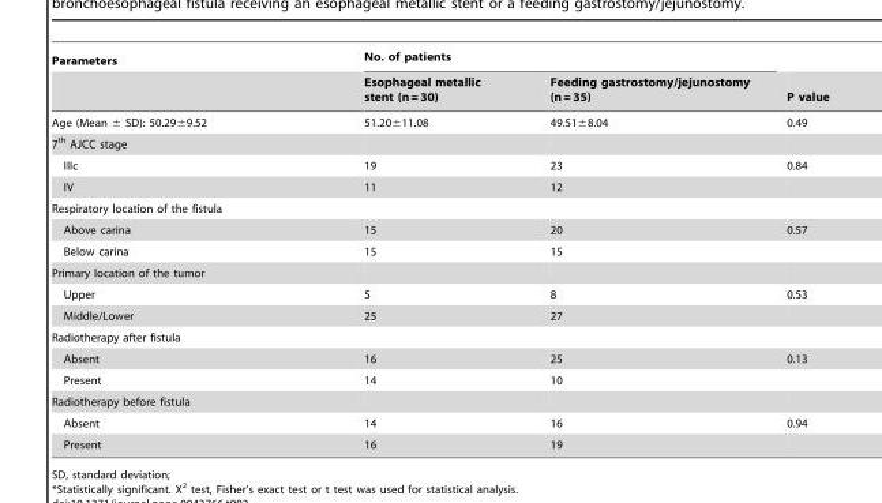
<table><thead><tr><td rowspan="2">Parameters</td><td colspan="2">No. of patients</td><td rowspan="2">P value</td></tr><tr><td>Esophageal metallic stent (n = 30)</td><td>Feeding gastrostomy/jejunostomy (n = 35)</td></tr></thead><tbody><tr><td>Age (Mean ± SD): 50.29±9.52</td><td>51.20±11.08</td><td>49.51±8.04</td><td>0.49</td></tr><tr><td colspan="4">7<sup>th</sup> AJCC stage</td></tr><tr><td>IIIc</td><td>19</td><td>23</td><td>0.84</td></tr><tr><td>IV</td><td>11</td><td>12</td><td></td></tr><tr><td colspan="4">Respiratory location of the fistula</td></tr><tr><td>Above carina</td><td>15</td><td>20</td><td>0.57</td></tr><tr><td>Below carina</td><td>15</td><td>15</td><td></td></tr><tr><td colspan="4">Primary location of the tumor</td></tr><tr><td>Upper</td><td>5</td><td>8</td><td>0.53</td></tr><tr><td>Middle/Lower</td><td>25</td><td>27</td><td></td></tr><tr><td colspan="4">Radiotherapy after fistula</td></tr><tr><td>Absent</td><td>16</td><td>25</td><td>0.13</td></tr><tr><td>Present</td><td>14</td><td>10</td><td></td></tr><tr><td colspan="4">Radiotherapy before fistula</td></tr><tr><td>Absent</td><td>14</td><td>16</td><td>0.94</td></tr><tr><td>Present</td><td>16</td><td>19</td><td></td></tr></tbody></table>